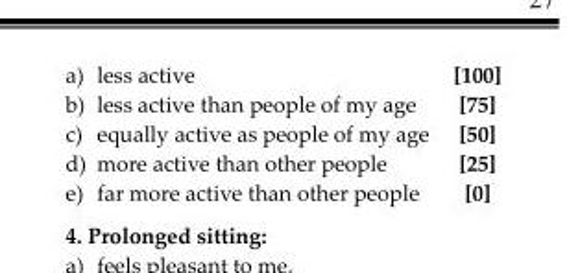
<table><tbody><tr><td>a) less active</td><td>[100]</td></tr><tr><td>b) less active than people of my age</td><td>[75]</td></tr><tr><td>c) equally active as people of my age</td><td>[50]</td></tr><tr><td>d) more active than other people</td><td>[25]</td></tr><tr><td>e) far more active than other people</td><td>[0]</td></tr></tbody></table>